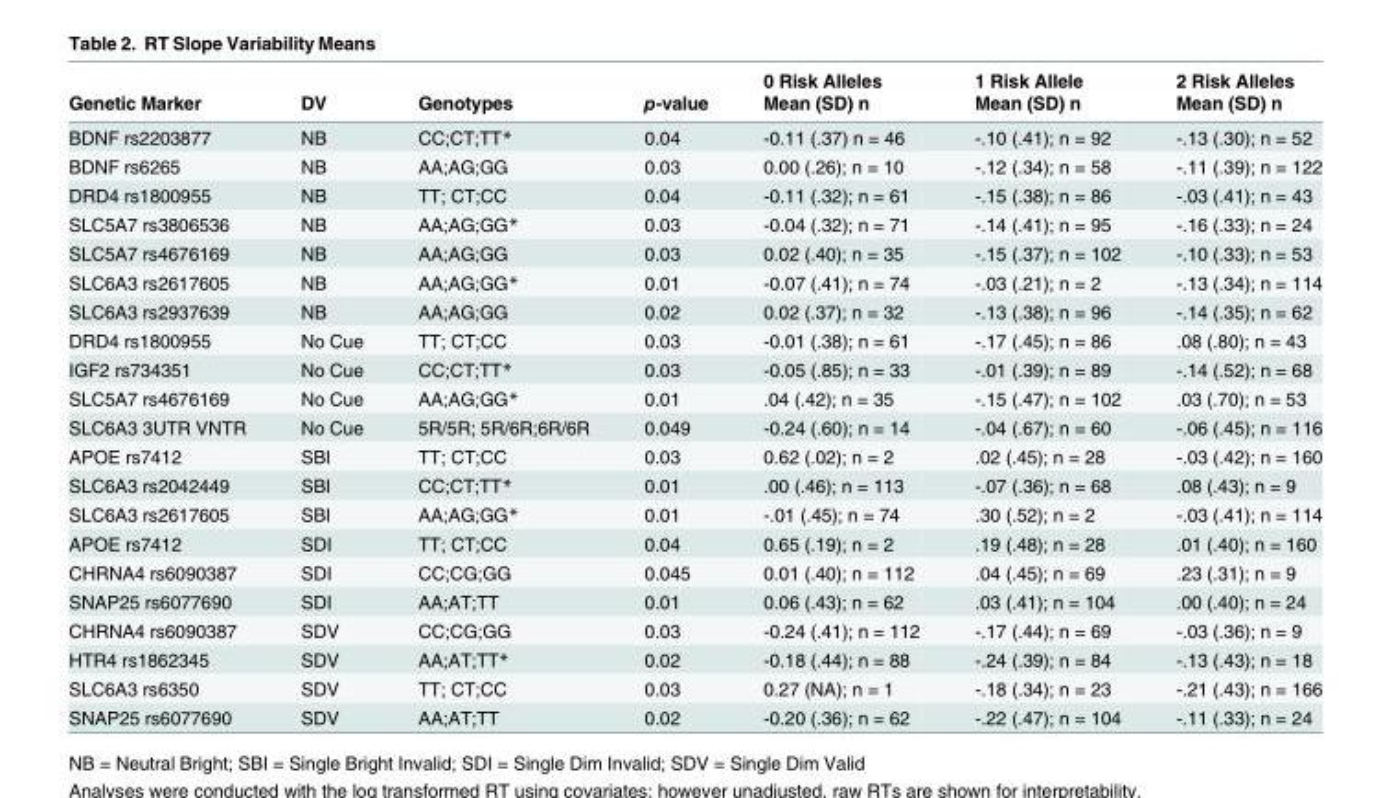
<table><thead><tr><td rowspan="2">Genetic Marker</td><td rowspan="2">DV</td><td rowspan="2">Genotypes</td><td rowspan="2">p-value</td><td rowspan="2">0 Risk Alleles Mean (SD) n</td><td rowspan="2">1 Risk Allele Mean (SD) n</td><td rowspan="2">2 Risk Alleles Mean (SD) n</td></tr><tr></tr></thead><tbody><tr><td>BDNF rs2203877</td><td>NB</td><td>CC;CT;TT*</td><td>0.04</td><td>-0.11 (.37) n = 46</td><td>-.10 (.41); n = 92</td><td>-.13 (.30); n = 52</td></tr><tr><td>BDNF rs6265</td><td>NB</td><td>AA;AG;GG</td><td>0.03</td><td>0.00 (.26); n = 10</td><td>-.12 (.34); n = 58</td><td>-.11 (.39); n = 122</td></tr><tr><td>DRD4 rs1800955</td><td>NB</td><td>TT; CT;CC</td><td>0.04</td><td>-0.11 (.32); n = 61</td><td>-.15 (.38); n = 86</td><td>-.03 (.41); n = 43</td></tr><tr><td>SLC5A7 rs3806536</td><td>NB</td><td>AA;AG;GG*</td><td>0.03</td><td>-0.04 (.32); n = 71</td><td>-.14 (.41); n = 95</td><td>-.16 (.33); n = 24</td></tr><tr><td>SLC5A7 rs4676169</td><td>NB</td><td>AA;AG;GG</td><td>0.03</td><td>0.02 (.40); n = 35</td><td>-.15 (.37); n = 102</td><td>-.10 (.33); n = 53</td></tr><tr><td>SLC6A3 rs2617605</td><td>NB</td><td>AA;AG;GG*</td><td>0.01</td><td>-0.07 (.41); n = 74</td><td>-.03 (.21); n = 2</td><td>-.13 (.34); n = 114</td></tr><tr><td>SLC6A3 rs2937639</td><td>NB</td><td>AA;AG;GG</td><td>0.02</td><td>0.02 (.37); n = 32</td><td>-.13 (.38); n = 96</td><td>-.14 (.35); n = 62</td></tr><tr><td>DRD4 rs1800955</td><td>No Cue</td><td>TT; CT;CC</td><td>0.03</td><td>-0.01 (.38); n = 61</td><td>-.17 (.45); n = 86</td><td>.08 (.80); n = 43</td></tr><tr><td>IGF2 rs734351</td><td>No Cue</td><td>CC;CT;TT*</td><td>0.03</td><td>-0.05 (.85); n = 33</td><td>-.01 (.39); n = 89</td><td>-.14 (.52); n = 68</td></tr><tr><td>SLC5A7 rs4676169</td><td>No Cue</td><td>AA;AG;GG*</td><td>0.01</td><td>.04 (.42); n = 35</td><td>-.15 (.47); n = 102</td><td>.03 (.70); n = 53</td></tr><tr><td>SLC6A3 3UTR VNTR</td><td>No Cue</td><td>5R/5R; 5R/6R;6R/6R</td><td>0.049</td><td>-0.24 (.60); n = 14</td><td>-.04 (.67); n = 60</td><td>-.06 (.45); n = 116</td></tr><tr><td>APOE rs7412</td><td>SBI</td><td>TT; CT;CC</td><td>0.03</td><td>0.62 (.02); n = 2</td><td>.02 (.45); n = 28</td><td>-.03 (.42); n = 160</td></tr><tr><td>SLC6A3 rs2042449</td><td>SBI</td><td>CC;CT;TT*</td><td>0.01</td><td>.00 (.46); n = 113</td><td>-.07 (.36); n = 68</td><td>.08 (.43); n = 9</td></tr><tr><td>SLC6A3 rs2617605</td><td>SBI</td><td>AA;AG;GG*</td><td>0.01</td><td>-.01 (.45); n = 74</td><td>.30 (.52); n = 2</td><td>-.03 (.41); n = 114</td></tr><tr><td>APOE rs7412</td><td>SDI</td><td>TT; CT;CC</td><td>0.04</td><td>0.65 (.19); n = 2</td><td>.19 (.48); n = 28</td><td>.01 (.40); n = 160</td></tr><tr><td>CHRNA4 rs6090387</td><td>SDI</td><td>CC;CG;GG</td><td>0.045</td><td>0.01 (.40); n = 112</td><td>.04 (.45); n = 69</td><td>.23 (.31); n = 9</td></tr><tr><td>SNAP25 rs6077690</td><td>SDI</td><td>AA;AT;TT</td><td>0.01</td><td>0.06 (.43); n = 62</td><td>.03 (.41); n = 104</td><td>.00 (.40); n = 24</td></tr><tr><td>CHRNA4 rs6090387</td><td>SDV</td><td>CC;CG;GG</td><td>0.03</td><td>-0.24 (.41); n = 112</td><td>-.17 (.44); n = 69</td><td>-.03 (.36); n = 9</td></tr><tr><td>HTR4 rs1862345</td><td>SDV</td><td>AA;AT;TT*</td><td>0.02</td><td>-0.18 (.44); n = 88</td><td>-.24 (.39); n = 84</td><td>-.13 (.43); n = 18</td></tr><tr><td>SLC6A3 rs6350</td><td>SDV</td><td>TT; CT;CC</td><td>0.03</td><td>0.27 (NA); n = 1</td><td>-.18 (.34); n = 23</td><td>-.21 (.43); n = 166</td></tr><tr><td>SNAP25 rs6077690</td><td>SDV</td><td>AA;AT;TT</td><td>0.02</td><td>-0.20 (.36); n = 62</td><td>-.22 (.47); n = 104</td><td>-.11 (.33); n = 24</td></tr></tbody></table>